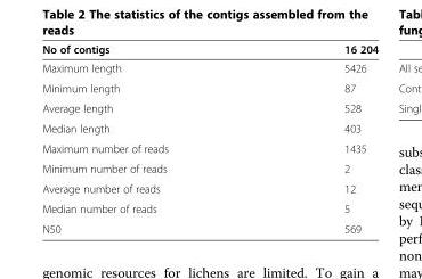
<table><thead><tr><td>No of contigs</td><td>16 204</td></tr></thead><tbody><tr><td>Maximum length</td><td>5426</td></tr><tr><td>Minimum length</td><td>87</td></tr><tr><td>Average length</td><td>528</td></tr><tr><td>Median length</td><td>403</td></tr><tr><td>Maximum number of reads</td><td>1435</td></tr><tr><td>Minimum number of reads</td><td>2</td></tr><tr><td>Average number of reads</td><td>12</td></tr><tr><td>Median number of reads</td><td>5</td></tr><tr><td>N50</td><td>569</td></tr></tbody></table>